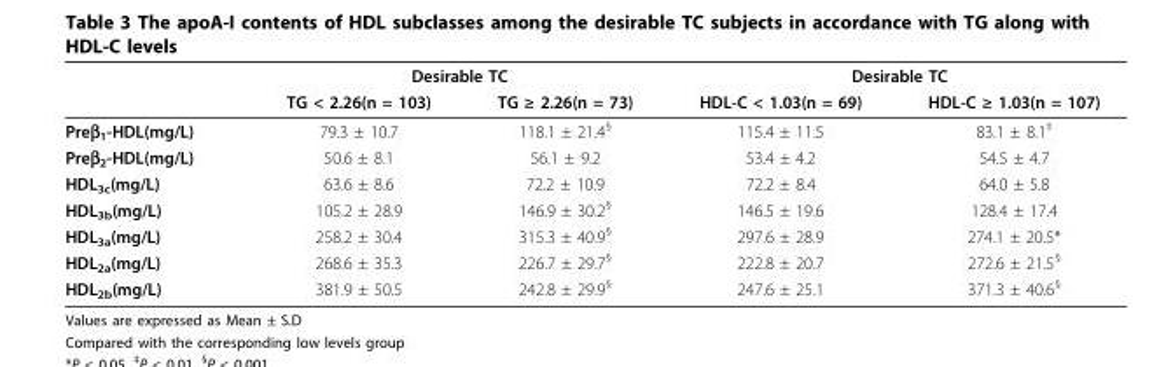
<table><thead><tr><td rowspan="2"></td><td colspan="2">Desirable TC</td><td colspan="2">Desirable TC</td></tr><tr><td>TG &lt; 2.26(n = 103)</td><td>TG ≥ 2.26(n = 73)</td><td>HDL-C &lt; 1.03(n = 69)</td><td>HDL-C ≥ 1.03(n = 107)</td></tr></thead><tbody><tr><td>Preβ<sub>1</sub>-HDL(mg/L)</td><td>79.3 ± 10.7</td><td>118.1 ± 21.4<sup>§</sup></td><td>115.4 ± 11.5</td><td>83.1 ± 8.1<sup>‡</sup></td></tr><tr><td>Preβ<sub>2</sub>-HDL(mg/L)</td><td>50.6 ± 8.1</td><td>56.1 ± 9.2</td><td>53.4 ± 4.2</td><td>54.5 ± 4.7</td></tr><tr><td>HDL<sub>3c</sub>(mg/L)</td><td>63.6 ± 8.6</td><td>72.2 ± 10.9</td><td>72.2 ± 8.4</td><td>64.0 ± 5.8</td></tr><tr><td>HDL<sub>3b</sub>(mg/L)</td><td>105.2 ± 28.9</td><td>146.9 ± 30.2<sup>§</sup></td><td>146.5 ± 19.6</td><td>128.4 ± 17.4</td></tr><tr><td>HDL<sub>3a</sub>(mg/L)</td><td>258.2 ± 30.4</td><td>315.3 ± 40.9<sup>§</sup></td><td>297.6 ± 28.9</td><td>274.1 ± 20.5*</td></tr><tr><td>HDL<sub>2a</sub>(mg/L)</td><td>268.6 ± 35.3</td><td>226.7 ± 29.7<sup>§</sup></td><td>222.8 ± 20.7</td><td>272.6 ± 21.5<sup>§</sup></td></tr><tr><td>HDL<sub>2b</sub>(mg/L)</td><td>381.9 ± 50.5</td><td>242.8 ± 29.9<sup>§</sup></td><td>247.6 ± 25.1</td><td>371.3 ± 40.6<sup>§</sup></td></tr></tbody></table>